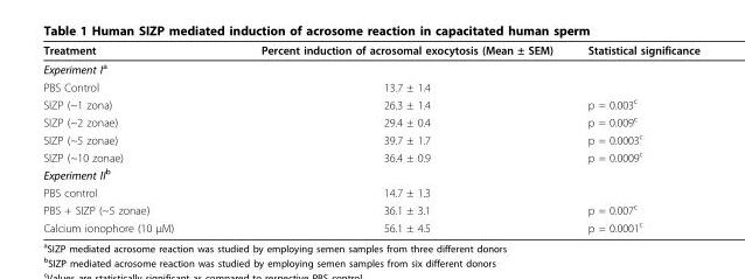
<table><thead><tr><td>Treatment</td><td>Percent induction of acrosomal exocytosis (Mean ± SEM)</td><td>Statistical significance</td></tr></thead><tbody><tr><td colspan="3">Experiment I<sup>a</sup></td></tr><tr><td>PBS Control</td><td>13.7 ± 1.4</td><td></td></tr><tr><td>SIZP (~1 zona)</td><td>26.3 ± 1.4</td><td>p = 0.003<sup>c</sup></td></tr><tr><td>SIZP (~2 zonae)</td><td>29.4 ± 0.4</td><td>p = 0.009<sup>c</sup></td></tr><tr><td>SIZP (~5 zonae)</td><td>39.7 ± 1.7</td><td>p = 0.0003<sup>c</sup></td></tr><tr><td>SIZP (~10 zonae)</td><td>36.4 ± 0.9</td><td>p = 0.0009<sup>c</sup></td></tr><tr><td colspan="3">Experiment II<sup>b</sup></td></tr><tr><td>PBS control</td><td>14.7 ± 1.3</td><td></td></tr><tr><td>PBS + SIZP (~5 zonae)</td><td>36.1 ± 3.1</td><td>p = 0.007<sup>c</sup></td></tr><tr><td>Calcium ionophore (10 μM)</td><td>56.1 ± 4.5</td><td>p = 0.0001<sup>c</sup></td></tr></tbody></table>